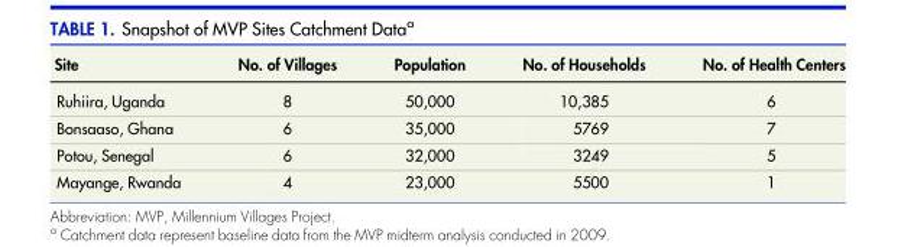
<table><thead><tr><td>Site</td><td>No. of Villages</td><td>Population</td><td>No. of Households</td><td>No. of Health Centers</td></tr></thead><tbody><tr><td>Ruhiira, Uganda</td><td>8</td><td>50,000</td><td>10,385</td><td>6</td></tr><tr><td>Bonsaaso, Ghana</td><td>6</td><td>35,000</td><td>5769</td><td>7</td></tr><tr><td>Potou, Senegal</td><td>6</td><td>32,000</td><td>3249</td><td>5</td></tr><tr><td>Mayange, Rwanda</td><td>4</td><td>23,000</td><td>5500</td><td>1</td></tr></tbody></table>